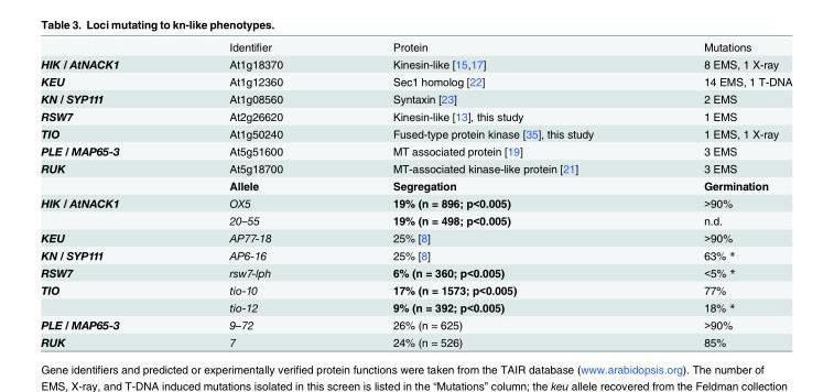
<table><thead><tr><td></td><td>Identifier</td><td>Protein</td><td>Mutations</td></tr></thead><tbody><tr><td>HIK / AtNACK1</td><td>At1g18370</td><td>Kinesin-like [15,17]</td><td>8 EMS, 1 X-ray</td></tr><tr><td>KEU</td><td>At1g12360</td><td>Sec1 homolog [22]</td><td>14 EMS, 1 T-DNA</td></tr><tr><td>KN / SYP111</td><td>At1g08560</td><td>Syntaxin [23]</td><td>2 EMS</td></tr><tr><td>RSW7</td><td>At2g26620</td><td>Kinesin-like [13], this study</td><td>1 EMS</td></tr><tr><td>TIO</td><td>At1g50240</td><td>Fused-type protein kinase [35], this study</td><td>1 EMS, 1 X-ray</td></tr><tr><td>PLE / MAP65-3</td><td>At5g51600</td><td>MT associated protein [19]</td><td>3 EMS</td></tr><tr><td rowspan="2">RUK</td><td>At5g18700</td><td>MT-associated kinase-like protein [21]</td><td>3 EMS</td></tr><tr><td>Allele</td><td>Segregation</td><td>Germination</td></tr><tr><td rowspan="2">HIK / AtNACK1</td><td>OX5</td><td>19% (n = 896; p&lt;0.005)</td><td>&gt;90%</td></tr><tr><td>20–55</td><td>19% (n = 498; p&lt;0.005)</td><td>n.d.</td></tr><tr><td>KEU</td><td>AP77-18</td><td>25% [8]</td><td>&gt;90%</td></tr><tr><td>KN / SYP111</td><td>AP6-16</td><td>25% [8]</td><td>63% *</td></tr><tr><td>RSW7</td><td>rsw7-lph</td><td>6% (n = 360; p&lt;0.005)</td><td>&lt;5% *</td></tr><tr><td rowspan="2">TIO</td><td>tio-10</td><td>17% (n = 1573; p&lt;0.005)</td><td>77%</td></tr><tr><td>tio-12</td><td>9% (n = 392; p&lt;0.005)</td><td>18% *</td></tr><tr><td>PLE / MAP65-3</td><td>9–72</td><td>26% (n = 625)</td><td>&gt;90%</td></tr><tr><td>RUK</td><td>7</td><td>24% (n = 526)</td><td>85%</td></tr></tbody></table>